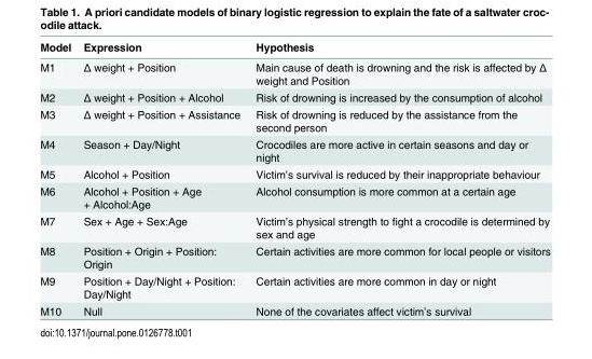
<table><thead><tr><td>Model</td><td>Expression</td><td>Hypothesis</td></tr></thead><tbody><tr><td>M1</td><td>Δ weight + Position</td><td>Main cause of death is drowning and the risk is affected by Δ weight and Position</td></tr><tr><td>M2</td><td>Δ weight + Position + Alcohol</td><td>Risk of drowning is increased by the consumption of alcohol</td></tr><tr><td>M3</td><td>Δ weight + Position + Assistance</td><td>Risk of drowning is reduced by the assistance from the second person</td></tr><tr><td>M4</td><td>Season + Day/Night</td><td>Crocodiles are more active in certain seasons and day or night</td></tr><tr><td>M5</td><td>Alcohol + Position</td><td>Victim’s survival is reduced by their inappropriate behaviour</td></tr><tr><td>M6</td><td>Alcohol + Position + Age + Alcohol:Age</td><td>Alcohol consumption is more common at a certain age</td></tr><tr><td>M7</td><td>Sex + Age + Sex:Age</td><td>Victim’s physical strength to fight a crocodile is determined by sex and age</td></tr><tr><td>M8</td><td>Position + Origin + Position: Origin</td><td>Certain activities are more common for local people or visitors</td></tr><tr><td>M9</td><td>Position + Day/Night + Position: Day/Night</td><td>Certain activities are more common in day or night</td></tr><tr><td>M10</td><td>Null</td><td>None of the covariates affect victim’s survival</td></tr></tbody></table>